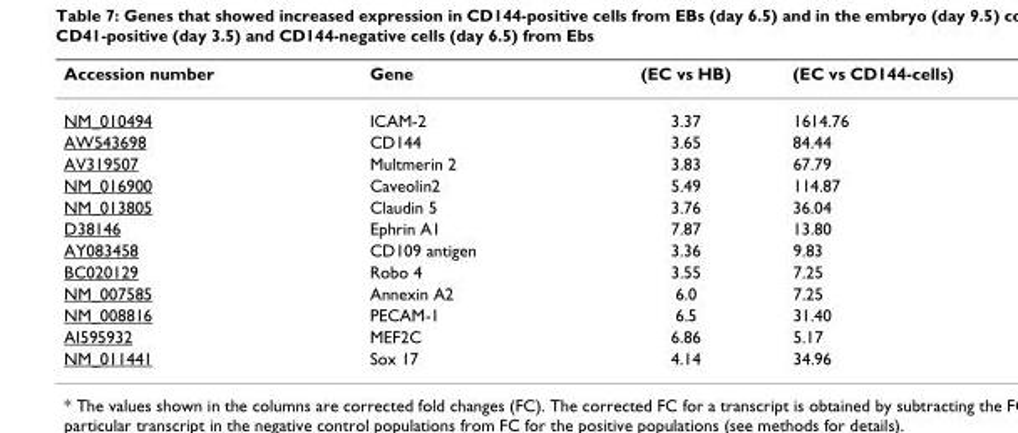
<table><thead><tr><td>Accession number</td><td>Gene</td><td>(EC vs HB)</td><td>(EC vs CD144-cells)</td></tr></thead><tbody><tr><td>NM_010494</td><td>ICAM-2</td><td>3.37</td><td>1614.76</td></tr><tr><td>AW543698</td><td>CD144</td><td>3.65</td><td>84.44</td></tr><tr><td>AV319507</td><td>Multmerin 2</td><td>3.83</td><td>67.79</td></tr><tr><td>NM_016900</td><td>Caveolin2</td><td>5.49</td><td>114.87</td></tr><tr><td>NM_013805</td><td>Claudin 5</td><td>3.76</td><td>36.04</td></tr><tr><td>D38146</td><td>Ephrin A1</td><td>7.87</td><td>13.80</td></tr><tr><td>AY083458</td><td>CD109 antigen</td><td>3.36</td><td>9.83</td></tr><tr><td>BC020129</td><td>Robo 4</td><td>3.55</td><td>7.25</td></tr><tr><td>NM_007585</td><td>Annexin A2</td><td>6.0</td><td>7.25</td></tr><tr><td>NM_008816</td><td>PECAM-1</td><td>6.5</td><td>31.40</td></tr><tr><td>AI595932</td><td>MEF2C</td><td>6.86</td><td>5.17</td></tr><tr><td>NM_011441</td><td>Sox 17</td><td>4.14</td><td>34.96</td></tr></tbody></table>